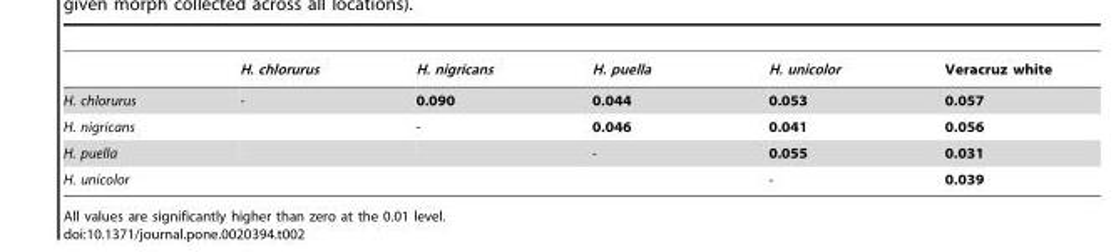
<table><thead><tr><td></td><td>H. chlorurus</td><td>H. nigricans</td><td>H. puella</td><td>H. unicolor</td><td>Veracruz white</td></tr></thead><tbody><tr><td>H. chlorurus</td><td>-</td><td>0.090</td><td>0.044</td><td>0.053</td><td>0.057</td></tr><tr><td>H. nigricans</td><td></td><td>-</td><td>0.046</td><td>0.041</td><td>0.056</td></tr><tr><td>H. puella</td><td></td><td></td><td>-</td><td>0.055</td><td>0.031</td></tr><tr><td>H. unicolor</td><td></td><td></td><td></td><td>-</td><td>0.039</td></tr></tbody></table>